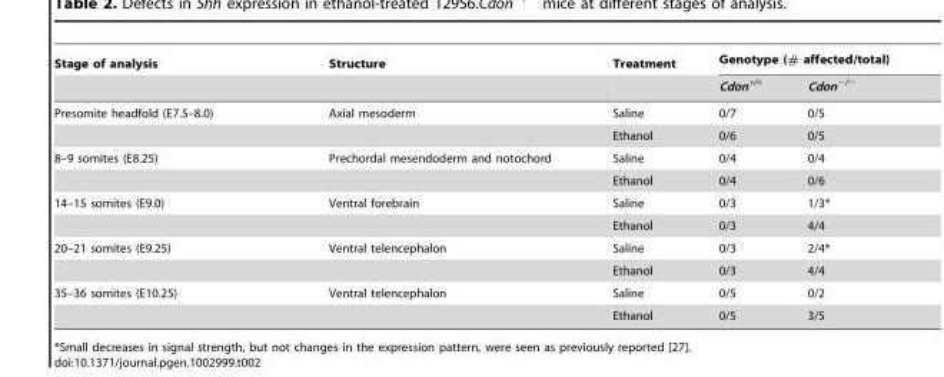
<table><thead><tr><td rowspan="2">Stage of analysis</td><td rowspan="2">Structure</td><td rowspan="2">Treatment</td><td colspan="2">Genotype (# affected/total)</td></tr><tr><td>Cdon<sup>+/+</sup></td><td>Cdon<sup>−/−</sup></td></tr></thead><tbody><tr><td rowspan="2">Presomite headfold (E7.5–8.0)</td><td>Axial mesoderm</td><td>Saline</td><td>0/7</td><td>0/5</td></tr><tr><td></td><td>Ethanol</td><td>0/6</td><td>0/5</td></tr><tr><td rowspan="2">8–9 somites (E8.25)</td><td>Prechordal mesendoderm and notochord</td><td>Saline</td><td>0/4</td><td>0/4</td></tr><tr><td></td><td>Ethanol</td><td>0/4</td><td>0/6</td></tr><tr><td rowspan="2">14–15 somites (E9.0)</td><td>Ventral forebrain</td><td>Saline</td><td>0/3</td><td>1/3*</td></tr><tr><td></td><td>Ethanol</td><td>0/3</td><td>4/4</td></tr><tr><td rowspan="2">20–21 somites (E9.25)</td><td>Ventral telencephalon</td><td>Saline</td><td>0/3</td><td>2/4*</td></tr><tr><td></td><td>Ethanol</td><td>0/3</td><td>4/4</td></tr><tr><td rowspan="2">35–36 somites (E10.25)</td><td>Ventral telencephalon</td><td>Saline</td><td>0/5</td><td>0/2</td></tr><tr><td></td><td>Ethanol</td><td>0/5</td><td>3/5</td></tr></tbody></table>